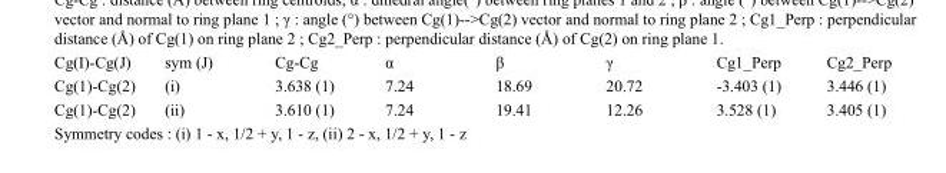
<table><tbody><tr><td>Cg(I)-Cg(J)</td><td>sym (J)</td><td>Cg-Cg</td><td>α</td><td>β</td><td>γ</td><td>Cg1_Perp</td><td>Cg2_Perp</td></tr><tr><td>Cg(1)-Cg(2)</td><td>(i)</td><td>3.638 (1)</td><td>7.24</td><td>18.69</td><td>20.72</td><td>-3.403 (1)</td><td>3.446 (1)</td></tr><tr><td>Cg(1)-Cg(2)</td><td>(ii)</td><td>3.610 (1)</td><td>7.24</td><td>19.41</td><td>12.26</td><td>3.528 (1)</td><td>3.405 (1)</td></tr></tbody></table>